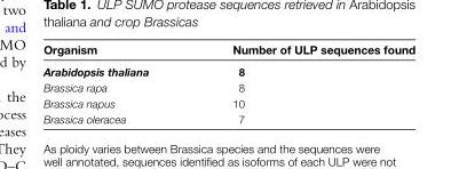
<table><thead><tr><td>Organism</td><td>Number of ULP sequences found</td></tr></thead><tbody><tr><td>Arabidopsis thaliana</td><td>8</td></tr><tr><td>Brassica rapa</td><td>8</td></tr><tr><td>Brassica napus</td><td>10</td></tr><tr><td>Brassica oleracea</td><td>7</td></tr></tbody></table>